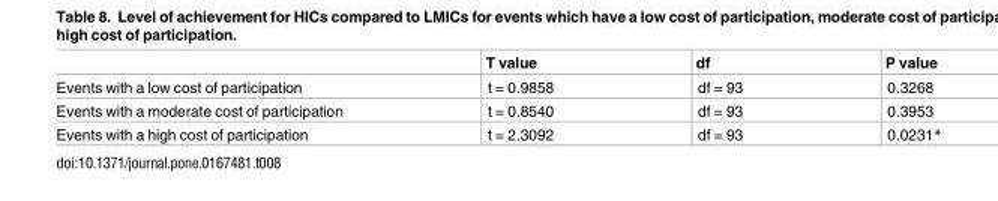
<table><thead><tr><td></td><td>T value</td><td>df</td><td>P value</td></tr></thead><tbody><tr><td>Events with a low cost of participation</td><td>t = 0.9858</td><td>df = 93</td><td>0.3268</td></tr><tr><td>Events with a moderate cost of participation</td><td>t = 0.8540</td><td>df = 93</td><td>0.3953</td></tr><tr><td>Events with a high cost of participation</td><td>t = 2.3092</td><td>df = 93</td><td>0.0231*</td></tr></tbody></table>